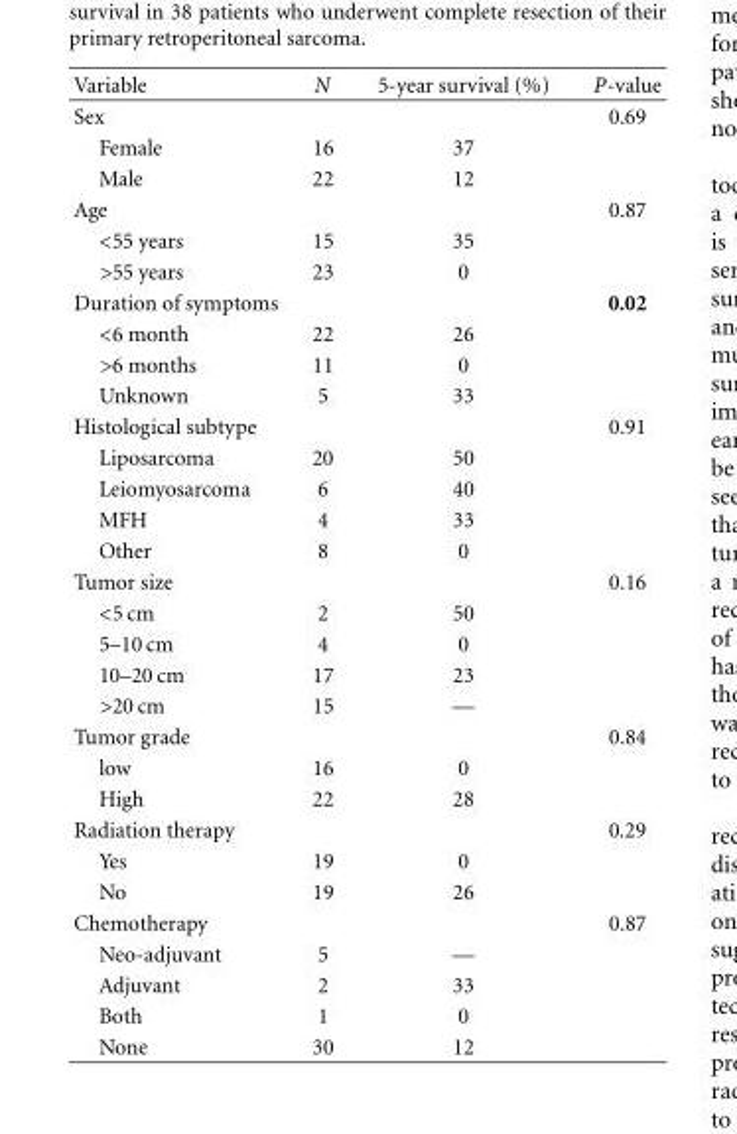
<table><thead><tr><td>Variable</td><td>N</td><td>5-year survival (%)</td><td>P-value</td></tr></thead><tbody><tr><td>Sex</td><td></td><td></td><td>0.69</td></tr><tr><td>Female</td><td>16</td><td>37</td><td></td></tr><tr><td>Male</td><td>22</td><td>12</td><td></td></tr><tr><td>Age</td><td></td><td></td><td>0.87</td></tr><tr><td>&lt;55 years</td><td>15</td><td>35</td><td></td></tr><tr><td>&gt;55 years</td><td>23</td><td>0</td><td></td></tr><tr><td>Duration of symptoms</td><td></td><td></td><td>0.02</td></tr><tr><td>&lt;6 month</td><td>22</td><td>26</td><td></td></tr><tr><td>&gt;6 months</td><td>11</td><td>0</td><td></td></tr><tr><td>Unknown</td><td>5</td><td>33</td><td></td></tr><tr><td>Histological subtype</td><td></td><td></td><td>0.91</td></tr><tr><td>Liposarcoma</td><td>20</td><td>50</td><td></td></tr><tr><td>Leiomyosarcoma</td><td>6</td><td>40</td><td></td></tr><tr><td>MFH</td><td>4</td><td>33</td><td></td></tr><tr><td>Other</td><td>8</td><td>0</td><td></td></tr><tr><td>Tumor size</td><td></td><td></td><td>0.16</td></tr><tr><td>&lt;5 cm</td><td>2</td><td>50</td><td></td></tr><tr><td>5–10 cm</td><td>4</td><td>0</td><td></td></tr><tr><td>10–20 cm</td><td>17</td><td>23</td><td></td></tr><tr><td>&gt;20 cm</td><td>15</td><td>—</td><td></td></tr><tr><td>Tumor grade</td><td></td><td></td><td>0.84</td></tr><tr><td>low</td><td>16</td><td>0</td><td></td></tr><tr><td>High</td><td>22</td><td>28</td><td></td></tr><tr><td>Radiation therapy</td><td></td><td></td><td>0.29</td></tr><tr><td>Yes</td><td>19</td><td>0</td><td></td></tr><tr><td>No</td><td>19</td><td>26</td><td></td></tr><tr><td>Chemotherapy</td><td></td><td></td><td>0.87</td></tr><tr><td>Neo-adjuvant</td><td>5</td><td>—</td><td></td></tr><tr><td>Adjuvant</td><td>2</td><td>33</td><td></td></tr><tr><td>Both</td><td>1</td><td>0</td><td></td></tr><tr><td>None</td><td>30</td><td>12</td><td></td></tr></tbody></table>